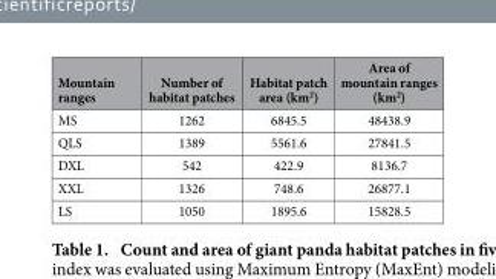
<table><thead><tr><td>Mountain ranges</td><td>Number of habitat patches</td><td>Habitat patch area (km<sup>2</sup>)</td><td>Area of mountain ranges (km<sup>2</sup>)</td></tr></thead><tbody><tr><td>MS</td><td>1262</td><td>6845.5</td><td>48438.9</td></tr><tr><td>QLS</td><td>1389</td><td>5561.6</td><td>27841.5</td></tr><tr><td>DXL</td><td>542</td><td>422.9</td><td>8136.7</td></tr><tr><td>XXL</td><td>1326</td><td>748.6</td><td>26877.1</td></tr><tr><td>LS</td><td>1050</td><td>1895.6</td><td>15828.5</td></tr></tbody></table>